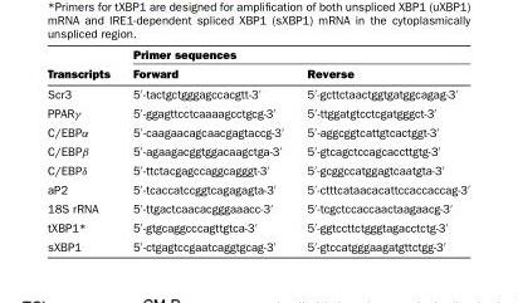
<table><thead><tr><td rowspan="2">Transcripts</td><td colspan="2">Primer sequences</td></tr><tr><td>Forward</td><td>Reverse</td></tr></thead><tbody><tr><td>Scr3</td><td>5′-tactgctgggagccacgtt-3′</td><td>5′-gcttctaactggtgatggcagag-3′</td></tr><tr><td>PPARγ</td><td>5′-ggagttcctcaaaagcctgcg-3′</td><td>5′-ttggatgtcctcgatgggct-3′</td></tr><tr><td>C/EBPα</td><td>5′-caagaacagcaacgagtaccg-3′</td><td>5′-aggcggtcattgtcactggt-3′</td></tr><tr><td>C/EBPβ</td><td>5′-agaagacggtggacaagctga-3′</td><td>5′-gtcagctccagcaccttgtg-3′</td></tr><tr><td>C/EBPδ</td><td>5′-ttctacgagccaggcagggt-3′</td><td>5′-gcggccatggagtcaatgta-3′</td></tr><tr><td>aP2</td><td>5′-tcaccatccggtcagagagta-3′</td><td>5′-ctttcataacacattccaccaccag-3′</td></tr><tr><td>18S rRNA</td><td>5′-ttgactcaacacgggaaacc-3′</td><td>5′-tcgctccaccaactaagaacg-3′</td></tr><tr><td>tXBP1*</td><td>5′-gtgcaggcccagttgtca-3′</td><td>5′-ggtccttctgggtagacctctg-3′</td></tr><tr><td>sXBP1</td><td>5′-ctgagtccgaatcaggtgcag-3′</td><td>5′-gtccatgggaagatgttctgg-3′</td></tr></tbody></table>